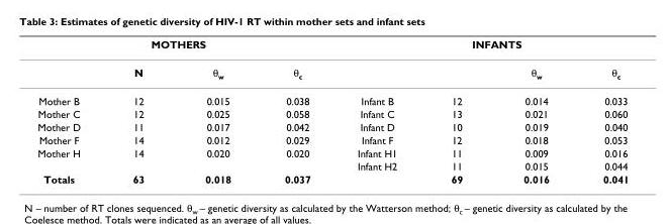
<table><thead><tr><td colspan="4">MOTHERS</td><td colspan="4">INFANTS</td></tr><tr><td></td><td>N</td><td>θ<sub>w</sub></td><td>θ<sub>c</sub></td><td></td><td></td><td>θ<sub>w</sub></td><td>θ<sub>c</sub></td></tr></thead><tbody><tr><td>Mother B</td><td>12</td><td>0.015</td><td>0.038</td><td>Infant B</td><td>12</td><td>0.014</td><td>0.033</td></tr><tr><td>Mother C</td><td>12</td><td>0.025</td><td>0.058</td><td>Infant C</td><td>13</td><td>0.021</td><td>0.060</td></tr><tr><td>Mother D</td><td>11</td><td>0.017</td><td>0.042</td><td>Infant D</td><td>10</td><td>0.019</td><td>0.040</td></tr><tr><td>Mother F</td><td>14</td><td>0.012</td><td>0.029</td><td>Infant F</td><td>12</td><td>0.018</td><td>0.053</td></tr><tr><td rowspan="2">Mother H</td><td>14</td><td>0.020</td><td>0.020</td><td>Infant H1</td><td>11</td><td>0.009</td><td>0.016</td></tr><tr><td></td><td></td><td></td><td>Infant H2</td><td>11</td><td>0.015</td><td>0.044</td></tr><tr><td>Totals</td><td>63</td><td>0.018</td><td>0.037</td><td></td><td>69</td><td>0.016</td><td>0.041</td></tr></tbody></table>